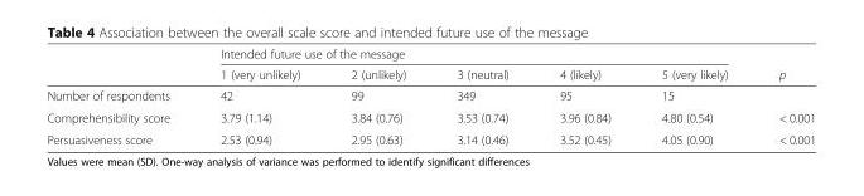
<table><thead><tr><td rowspan="2"></td><td colspan="5">Intended future use of the message</td><td rowspan="2">p</td></tr><tr><td>1 (very unlikely)</td><td>2 (unlikely)</td><td>3 (neutral)</td><td>4 (likely)</td><td>5 (very likely)</td></tr></thead><tbody><tr><td>Number of respondents</td><td>42</td><td>99</td><td>349</td><td>95</td><td>15</td><td></td></tr><tr><td>Comprehensibility score</td><td>3.79 (1.14)</td><td>3.84 (0.76)</td><td>3.53 (0.74)</td><td>3.96 (0.84)</td><td>4.80 (0.54)</td><td>&lt; 0.001</td></tr><tr><td>Persuasiveness score</td><td>2.53 (0.94)</td><td>2.95 (0.63)</td><td>3.14 (0.46)</td><td>3.52 (0.45)</td><td>4.05 (0.90)</td><td>&lt; 0.001</td></tr></tbody></table>